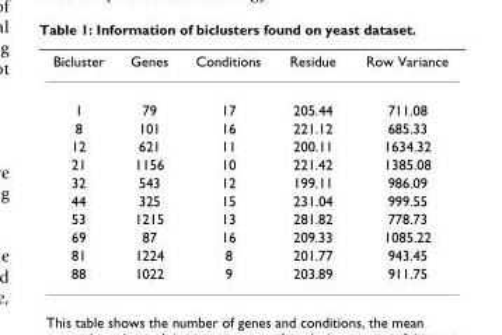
<table><thead><tr><td>Bicluster</td><td>Genes</td><td>Conditions</td><td>Residue</td><td>Row Variance</td></tr></thead><tbody><tr><td>1</td><td>79</td><td>17</td><td>205.44</td><td>711.08</td></tr><tr><td>8</td><td>101</td><td>16</td><td>221.12</td><td>685.33</td></tr><tr><td>12</td><td>621</td><td>11</td><td>200.11</td><td>1634.32</td></tr><tr><td>21</td><td>1156</td><td>10</td><td>221.42</td><td>1385.08</td></tr><tr><td>32</td><td>543</td><td>12</td><td>199.11</td><td>986.09</td></tr><tr><td>44</td><td>325</td><td>15</td><td>231.04</td><td>999.55</td></tr><tr><td>53</td><td>1215</td><td>13</td><td>281.82</td><td>778.73</td></tr><tr><td>69</td><td>87</td><td>16</td><td>209.33</td><td>1085.22</td></tr><tr><td>81</td><td>1224</td><td>8</td><td>201.77</td><td>943.45</td></tr><tr><td>88</td><td>1022</td><td>9</td><td>203.89</td><td>911.75</td></tr></tbody></table>